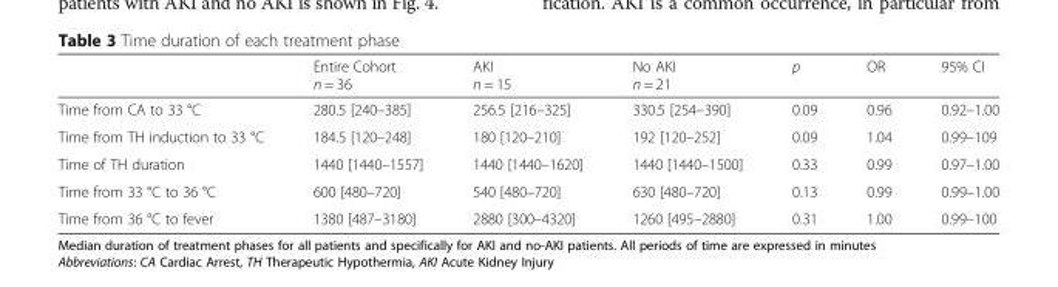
<table><thead><tr><td></td><td>Entire Cohort n = 36</td><td>AKI n = 15</td><td>No AKI n = 21</td><td>p</td><td>OR</td><td>95% CI</td></tr></thead><tbody><tr><td>Time from CA to 33 °C</td><td>280.5 [240–385]</td><td>256.5 [216–325]</td><td>330.5 [254–390]</td><td>0.09</td><td>0.96</td><td>0.92–1.00</td></tr><tr><td>Time from TH induction to 33 °C</td><td>184.5 [120–248]</td><td>180 [120–210]</td><td>192 [120–252]</td><td>0.09</td><td>1.04</td><td>0.99–109</td></tr><tr><td>Time of TH duration</td><td>1440 [1440–1557]</td><td>1440 [1440–1620]</td><td>1440 [1440–1500]</td><td>0.33</td><td>0.99</td><td>0.97–1.00</td></tr><tr><td>Time from 33 °C to 36 °C</td><td>600 [480–720]</td><td>540 [480–720]</td><td>630 [480–720]</td><td>0.13</td><td>0.99</td><td>0.99–1.00</td></tr><tr><td>Time from 36 °C to fever</td><td>1380 [487–3180]</td><td>2880 [300–4320]</td><td>1260 [495–2880]</td><td>0.31</td><td>1.00</td><td>0.99–100</td></tr></tbody></table>